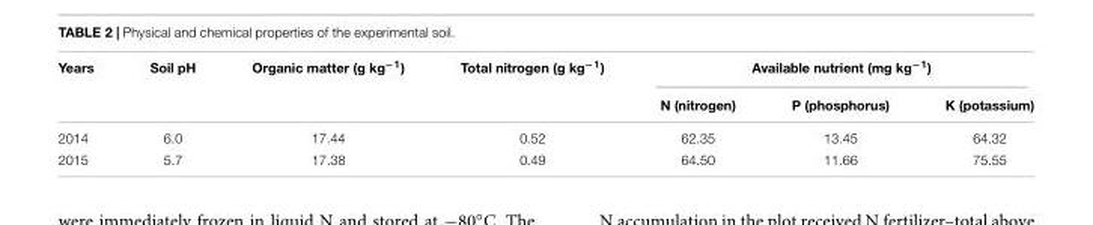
<table><thead><tr><td rowspan="2">Years</td><td rowspan="2">Soil pH</td><td rowspan="2">Organic matter (g kg<sup>−1</sup>)</td><td rowspan="2">Total nitrogen (g kg<sup>−1</sup>)</td><td colspan="3">Available nutrient (mg kg<sup>−1</sup>)</td></tr><tr><td>N (nitrogen)</td><td>P (phosphorus)</td><td>K (potassium)</td></tr></thead><tbody><tr><td>2014</td><td>6.0</td><td>17.44</td><td>0.52</td><td>62.35</td><td>13.45</td><td>64.32</td></tr><tr><td>2015</td><td>5.7</td><td>17.38</td><td>0.49</td><td>64.50</td><td>11.66</td><td>75.55</td></tr></tbody></table>